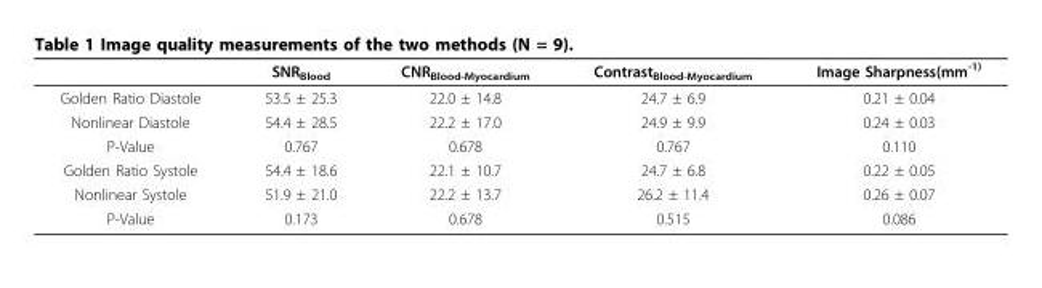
<table><thead><tr><td></td><td>SNR<sub>Blood</sub></td><td>CNR<sub>Blood-Myocardium</sub></td><td>Contrast<sub>Blood-Myocardium</sub></td><td>Image Sharpness(mm<sup>-1)</sup></td></tr></thead><tbody><tr><td>Golden Ratio Diastole</td><td>53.5 ± 25.3</td><td>22.0 ± 14.8</td><td>24.7 ± 6.9</td><td>0.21 ± 0.04</td></tr><tr><td>Nonlinear Diastole</td><td>54.4 ± 28.5</td><td>22.2 ± 17.0</td><td>24.9 ± 9.9</td><td>0.24 ± 0.03</td></tr><tr><td>P-Value</td><td>0.767</td><td>0.678</td><td>0.767</td><td>0.110</td></tr><tr><td>Golden Ratio Systole</td><td>54.4 ± 18.6</td><td>22.1 ± 10.7</td><td>24.7 ± 6.8</td><td>0.22 ± 0.05</td></tr><tr><td>Nonlinear Systole</td><td>51.9 ± 21.0</td><td>22.2 ± 13.7</td><td>26.2 ± 11.4</td><td>0.26 ± 0.07</td></tr><tr><td>P-Value</td><td>0.173</td><td>0.678</td><td>0.515</td><td>0.086</td></tr></tbody></table>